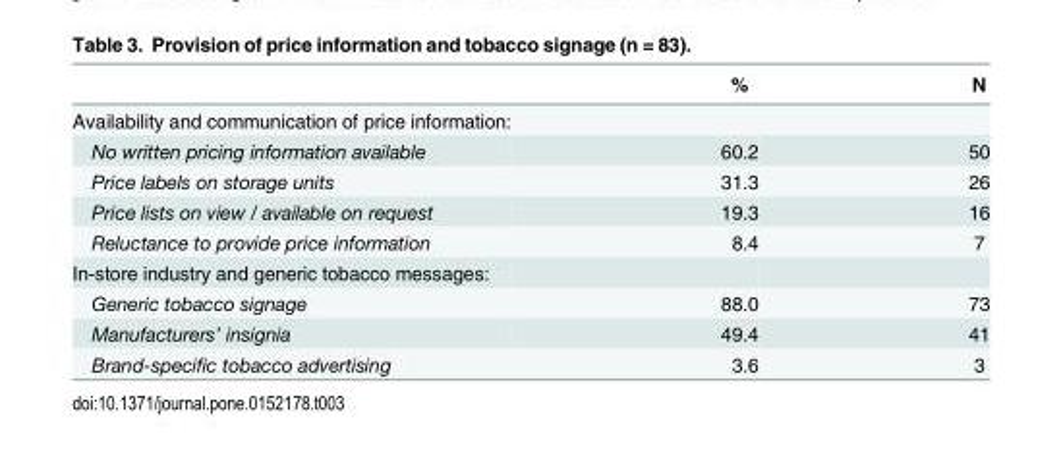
<table><thead><tr><td></td><td>%</td><td>N</td></tr></thead><tbody><tr><td colspan="3">Availability and communication of price information:</td></tr><tr><td>No written pricing information available</td><td>60.2</td><td>50</td></tr><tr><td>Price labels on storage units</td><td>31.3</td><td>26</td></tr><tr><td>Price lists on view / available on request</td><td>19.3</td><td>16</td></tr><tr><td>Reluctance to provide price information</td><td>8.4</td><td>7</td></tr><tr><td colspan="3">In-store industry and generic tobacco messages:</td></tr><tr><td>Generic tobacco signage</td><td>88.0</td><td>73</td></tr><tr><td>Manufacturers’ insignia</td><td>49.4</td><td>41</td></tr><tr><td>Brand-specific tobacco advertising</td><td>3.6</td><td>3</td></tr></tbody></table>